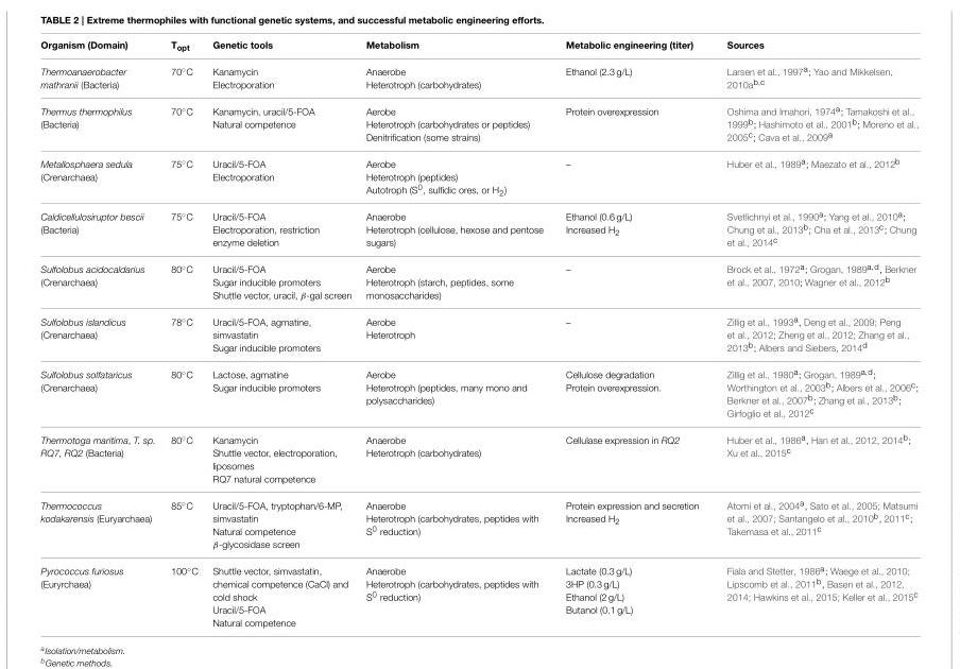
<table><thead><tr><td>Organism (Domain)</td><td>T<sub>opt</sub></td><td>Genetic tools</td><td>Metabolism</td><td>Metabolic engineering (titer)</td><td>Sources</td></tr></thead><tbody><tr><td>Thermoanaerobacter mathranii (Bacteria)</td><td>70◦C</td><td>Kanamycin Electroporation</td><td>Anaerobe Heterotroph (carbohydrates)</td><td>Ethanol (2.3 g/L)</td><td>Larsen et al., 1997<sup>a</sup>; Yao and Mikkelsen, 2010a<sup>b,c</sup></td></tr><tr><td>Thermus thermophilus (Bacteria)</td><td>70◦C</td><td>Kanamycin, uracil/5-FOA Natural competence</td><td>Aerobe Heterotroph (carbohydrates or peptides) Denitrification (some strains)</td><td>Protein overexpression</td><td>Oshima and Imahori, 1974<sup>a</sup>; Tamakoshi et al., 1999<sup>b</sup>; Hashimoto et al., 2001<sup>b</sup>; Moreno et al., 2005<sup>c</sup>; Cava et al., 2009<sup>a</sup></td></tr><tr><td>Metallosphaera sedula (Crenarchaea)</td><td>75◦C</td><td>Uracil/5-FOA Electroporation</td><td>Aerobe Heterotroph (peptides) Autotroph (S<sup>0</sup>, sulfidic ores, or H<sub>2</sub>)</td><td>–</td><td>Huber et al., 1989<sup>a</sup>; Maezato et al., 2012<sup>b</sup></td></tr><tr><td>Caldicellulosiruptor bescii (Bacteria)</td><td>75◦C</td><td>Uracil/5-FOA Electroporation, restriction enzyme deletion</td><td>Anaerobe Heterotroph (cellulose, hexose and pentose sugars)</td><td>Ethanol (0.6 g/L) Increased H<sub>2</sub></td><td>Svetlichnyi et al., 1990<sup>a</sup>; Yang et al., 2010<sup>a</sup>; Chung et al., 2013<sup>b</sup>; Cha et al., 2013<sup>c</sup>; Chung et al., 2014<sup>c</sup></td></tr><tr><td>Sulfolobus acidocaldarius (Crenarchaea)</td><td>80◦C</td><td>Uracil/5-FOA Sugar inducible promoters Shuttle vector, uracil, β-gal screen</td><td>Aerobe Heterotroph (starch, peptides, some monosaccharides)</td><td>–</td><td>Brock et al., 1972<sup>a</sup>; Grogan, 1989<sup>a,d</sup>, Berkner et al., 2007, 2010; Wagner et al., 2012<sup>b</sup></td></tr><tr><td>Sulfolobus islandicus (Crenarchaea)</td><td>78◦C</td><td>Uracil/5-FOA, agmatine, simvastatin Sugar inducible promoters</td><td>Aerobe Heterotroph</td><td>–</td><td>Zillig et al., 1993<sup>a</sup>, Deng et al., 2009; Peng et al., 2012; Zheng et al., 2012; Zhang et al., 2013<sup>b</sup>; Albers and Siebers, 2014<sup>d</sup></td></tr><tr><td>Sulfolobus solfataricus (Crenarchaea)</td><td>80◦C</td><td>Lactose, agmatine Sugar inducible promoters</td><td>Aerobe Heterotroph (peptides, many mono and polysaccharides)</td><td>Cellulose degradation Protein overexpression.</td><td>Zillig et al., 1980<sup>a</sup>; Grogan, 1989<sup>a,d</sup>; Worthington et al., 2003<sup>b</sup>; Albers et al., 2006<sup>c</sup>; Berkner et al., 2007<sup>b</sup>; Zhang et al., 2013<sup>b</sup>; Girfoglio et al., 2012<sup>c</sup></td></tr><tr><td>Thermotoga maritima, T. sp. RQ7, RQ2 (Bacteria)</td><td>80◦C</td><td>Kanamycin Shuttle vector, electroporation, liposomes RQ7 natural competence</td><td>Anaerobe Heterotroph (carbohydrates)</td><td>Cellulase expression in RQ2</td><td>Huber et al., 1986<sup>a</sup>, Han et al., 2012, 2014<sup>b</sup>; Xu et al., 2015<sup>c</sup></td></tr><tr><td>Thermococcus kodakarensis (Euryarchaea)</td><td>85◦C</td><td>Uracil/5-FOA, tryptophan/6-MP, simvastatin Natural competence β-glycosidase screen</td><td>Anaerobe Heterotroph (carbohydrates, peptides with S<sup>0</sup> reduction)</td><td>Protein expression and secretion Increased H<sub>2</sub></td><td>Atomi et al., 2004<sup>a</sup>, Sato et al., 2005; Matsumi et al., 2007; Santangelo et al., 2010<sup>b</sup>, 2011<sup>c</sup>; Takemasa et al., 2011<sup>c</sup></td></tr><tr><td>Pyrococcus furiosus (Euryrchaea)</td><td>100◦C</td><td>Shuttle vector, simvastatin, chemical competence (CaCl) and cold shock Uracil/5-FOA Natural competence</td><td>Anaerobe Heterotroph (carbohydrates, peptides with S<sup>0</sup> reduction)</td><td>Lactate (0.3 g/L) 3HP (0.3 g/L) Ethanol (2 g/L) Butanol (0.1 g/L)</td><td>Fiala and Stetter, 1986<sup>a</sup>; Waege et al., 2010; Lipscomb et al., 2011<sup>b</sup>, Basen et al., 2012, 2014; Hawkins et al., 2015; Keller et al., 2015<sup>c</sup></td></tr></tbody></table>